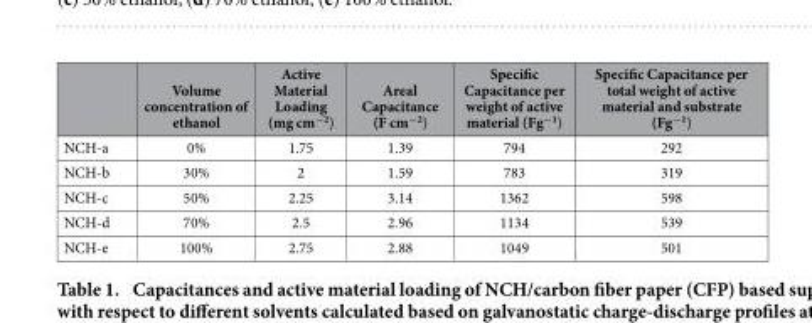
<table><thead><tr><td></td><td>Volume concentration of ethanol</td><td>Active Material Loading (mg cm<sup>−2</sup>)</td><td>Areal Capacitance (F cm<sup>−2</sup>)</td><td>Specific Capacitance per weight of active material (Fg<sup>−1</sup>)</td><td>Specific Capacitance per total weight of active material and substrate (Fg<sup>−1</sup>)</td></tr></thead><tbody><tr><td>NCH-a</td><td>0%</td><td>1.75</td><td>1.39</td><td>794</td><td>292</td></tr><tr><td>NCH-b</td><td>30%</td><td>2</td><td>1.59</td><td>783</td><td>319</td></tr><tr><td>NCH-c</td><td>50%</td><td>2.25</td><td>3.14</td><td>1362</td><td>598</td></tr><tr><td>NCH-d</td><td>70%</td><td>2.5</td><td>2.96</td><td>1134</td><td>539</td></tr><tr><td>NCH-e</td><td>100%</td><td>2.75</td><td>2.88</td><td>1049</td><td>501</td></tr></tbody></table>